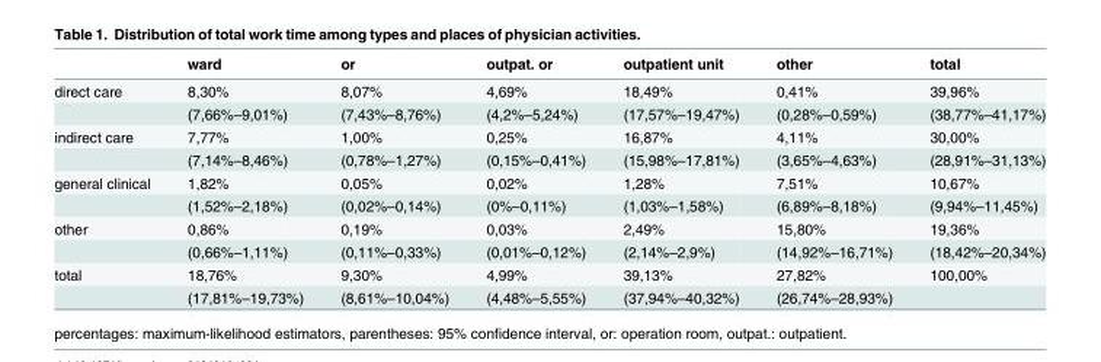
<table><thead><tr><td></td><td>ward</td><td>or</td><td>outpat. or</td><td>outpatient unit</td><td>other</td><td>total</td></tr></thead><tbody><tr><td rowspan="2">direct care</td><td>8,30%</td><td>8,07%</td><td>4,69%</td><td>18,49%</td><td>0,41%</td><td>39,96%</td></tr><tr><td>(7,66%–9,01%)</td><td>(7,43%–8,76%)</td><td>(4,2%–5,24%)</td><td>(17,57%–19,47%)</td><td>(0,28%–0,59%)</td><td>(38,77%–41,17%)</td></tr><tr><td rowspan="2">indirect care</td><td>7,77%</td><td>1,00%</td><td>0,25%</td><td>16,87%</td><td>4,11%</td><td>30,00%</td></tr><tr><td>(7,14%–8,46%)</td><td>(0,78%–1,27%)</td><td>(0,15%–0,41%)</td><td>(15,98%–17,81%)</td><td>(3,65%–4,63%)</td><td>(28,91%–31,13%)</td></tr><tr><td rowspan="2">general clinical</td><td>1,82%</td><td>0,05%</td><td>0,02%</td><td>1,28%</td><td>7,51%</td><td>10,67%</td></tr><tr><td>(1,52%–2,18%)</td><td>(0,02%–0,14%)</td><td>(0%–0,11%)</td><td>(1,03%–1,58%)</td><td>(6,89%–8,18%)</td><td>(9,94%–11,45%)</td></tr><tr><td rowspan="2">other</td><td>0,86%</td><td>0,19%</td><td>0,03%</td><td>2,49%</td><td>15,80%</td><td>19,36%</td></tr><tr><td>(0,66%–1,11%)</td><td>(0,11%–0,33%)</td><td>(0,01%–0,12%)</td><td>(2,14%–2,9%)</td><td>(14,92%–16,71%)</td><td>(18,42%–20,34%)</td></tr><tr><td rowspan="2">total</td><td>18,76%</td><td>9,30%</td><td>4,99%</td><td>39,13%</td><td>27,82%</td><td>100,00%</td></tr><tr><td>(17,81%–19,73%)</td><td>(8,61%–10,04%)</td><td>(4,48%–5,55%)</td><td>(37,94%–40,32%)</td><td>(26,74%–28,93%)</td><td></td></tr></tbody></table>